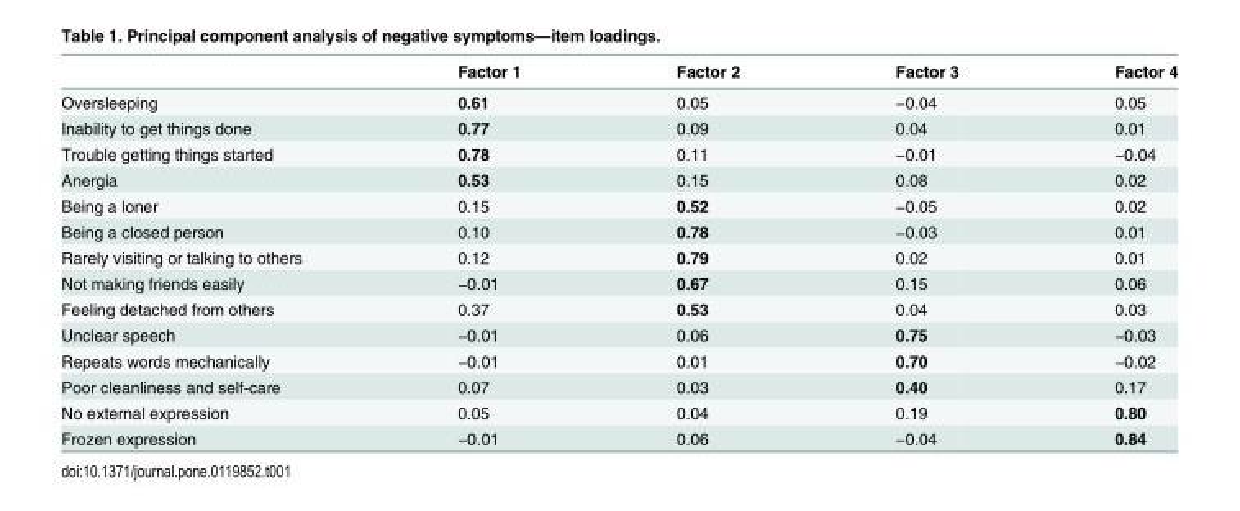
<table><thead><tr><td></td><td>Factor 1</td><td>Factor 2</td><td>Factor 3</td><td>Factor 4</td></tr></thead><tbody><tr><td>Oversleeping</td><td>0.61</td><td>0.05</td><td>−0.04</td><td>0.05</td></tr><tr><td>Inability to get things done</td><td>0.77</td><td>0.09</td><td>0.04</td><td>0.01</td></tr><tr><td>Trouble getting things started</td><td>0.78</td><td>0.11</td><td>−0.01</td><td>−0.04</td></tr><tr><td>Anergia</td><td>0.53</td><td>0.15</td><td>0.08</td><td>0.02</td></tr><tr><td>Being a loner</td><td>0.15</td><td>0.52</td><td>−0.05</td><td>0.02</td></tr><tr><td>Being a closed person</td><td>0.10</td><td>0.78</td><td>−0.03</td><td>0.01</td></tr><tr><td>Rarely visiting or talking to others</td><td>0.12</td><td>0.79</td><td>0.02</td><td>0.01</td></tr><tr><td>Not making friends easily</td><td>−0.01</td><td>0.67</td><td>0.15</td><td>0.06</td></tr><tr><td>Feeling detached from others</td><td>0.37</td><td>0.53</td><td>0.04</td><td>0.03</td></tr><tr><td>Unclear speech</td><td>−0.01</td><td>0.06</td><td>0.75</td><td>−0.03</td></tr><tr><td>Repeats words mechanically</td><td>−0.01</td><td>0.01</td><td>0.70</td><td>−0.02</td></tr><tr><td>Poor cleanliness and self-care</td><td>0.07</td><td>0.03</td><td>0.40</td><td>0.17</td></tr><tr><td>No external expression</td><td>0.05</td><td>0.04</td><td>0.19</td><td>0.80</td></tr><tr><td>Frozen expression</td><td>−0.01</td><td>0.06</td><td>−0.04</td><td>0.84</td></tr></tbody></table>